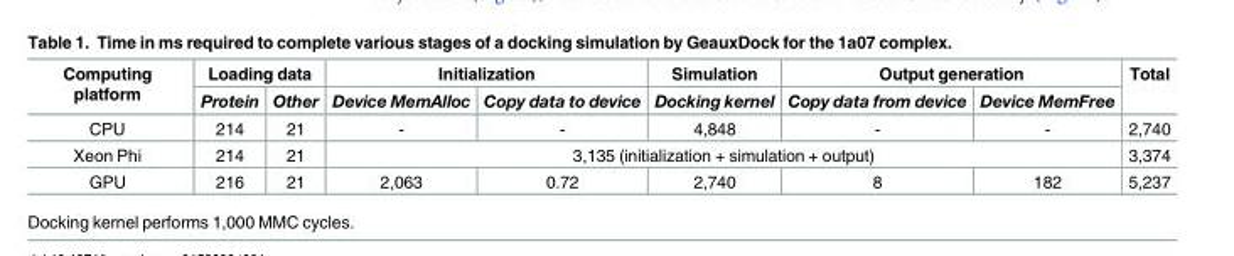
<table><thead><tr><td rowspan="2">Computing platform</td><td colspan="2">Loading data</td><td colspan="2">Initialization</td><td rowspan="2">Simulation Docking kernel</td><td colspan="2">Output generation</td><td rowspan="2">Total</td></tr><tr><td>Protein</td><td>Other</td><td>Device MemAlloc</td><td>Copy data to device</td><td>Copy data from device</td><td>Device MemFree</td></tr></thead><tbody><tr><td>CPU</td><td>214</td><td>21</td><td>-</td><td>-</td><td>4,848</td><td>-</td><td>-</td><td>2,740</td></tr><tr><td>Xeon Phi</td><td>214</td><td>21</td><td colspan="5">3,135 (initialization + simulation + output)</td><td>3,374</td></tr><tr><td>GPU</td><td>216</td><td>21</td><td>2,063</td><td>0.72</td><td>2,740</td><td>8</td><td>182</td><td>5,237</td></tr></tbody></table>